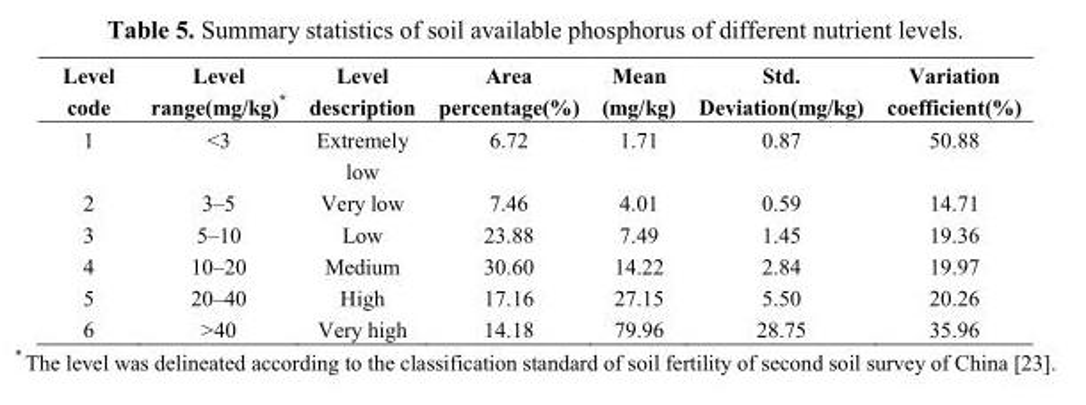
<table><thead><tr><td>Level code</td><td>Level range(mg/kg)*</td><td>Level description</td><td>Area percentage(%)</td><td>Mean (mg/kg)</td><td>Std. Deviation(mg/kg)</td><td>Variation coefficient(%)</td></tr></thead><tbody><tr><td>1</td><td>&lt;3</td><td>Extremely low</td><td>6.72</td><td>1.71</td><td>0.87</td><td>50.88</td></tr><tr><td>2</td><td>3–5</td><td>Very low</td><td>7.46</td><td>4.01</td><td>0.59</td><td>14.71</td></tr><tr><td>3</td><td>5–10</td><td>Low</td><td>23.88</td><td>7.49</td><td>1.45</td><td>19.36</td></tr><tr><td>4</td><td>10–20</td><td>Medium</td><td>30.60</td><td>14.22</td><td>2.84</td><td>19.97</td></tr><tr><td>5</td><td>20–40</td><td>High</td><td>17.16</td><td>27.15</td><td>5.50</td><td>20.26</td></tr><tr><td>6</td><td>&gt;40</td><td>Very high</td><td>14.18</td><td>79.96</td><td>28.75</td><td>35.96</td></tr></tbody></table>